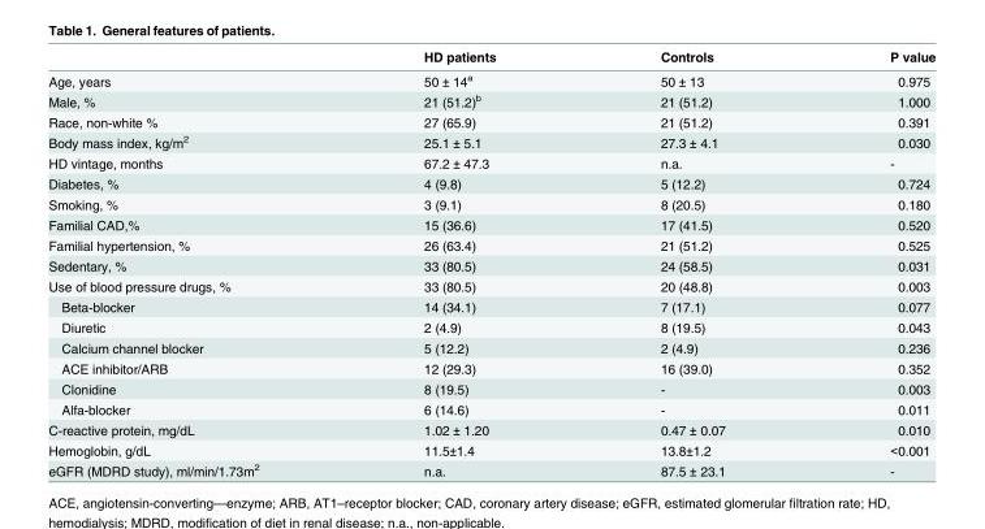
<table><thead><tr><td></td><td>HD patients</td><td>Controls</td><td>P value</td></tr></thead><tbody><tr><td>Age, years</td><td>50 ± 14<sup>a</sup></td><td>50 ± 13</td><td>0.975</td></tr><tr><td>Male, %</td><td>21 (51.2)<sup>b</sup></td><td>21 (51.2)</td><td>1.000</td></tr><tr><td>Race, non-white %</td><td>27 (65.9)</td><td>21 (51.2)</td><td>0.391</td></tr><tr><td>Body mass index, kg/m<sup>2</sup></td><td>25.1 ± 5.1</td><td>27.3 ± 4.1</td><td>0.030</td></tr><tr><td>HD vintage, months</td><td>67.2 ± 47.3</td><td>n.a.</td><td>-</td></tr><tr><td>Diabetes, %</td><td>4 (9.8)</td><td>5 (12.2)</td><td>0.724</td></tr><tr><td>Smoking, %</td><td>3 (9.1)</td><td>8 (20.5)</td><td>0.180</td></tr><tr><td>Familial CAD,%</td><td>15 (36.6)</td><td>17 (41.5)</td><td>0.520</td></tr><tr><td>Familial hypertension, %</td><td>26 (63.4)</td><td>21 (51.2)</td><td>0.525</td></tr><tr><td>Sedentary, %</td><td>33 (80.5)</td><td>24 (58.5)</td><td>0.031</td></tr><tr><td>Use of blood pressure drugs, %</td><td>33 (80.5)</td><td>20 (48.8)</td><td>0.003</td></tr><tr><td>Beta-blocker</td><td>14 (34.1)</td><td>7 (17.1)</td><td>0.077</td></tr><tr><td>Diuretic</td><td>2 (4.9)</td><td>8 (19.5)</td><td>0.043</td></tr><tr><td>Calcium channel blocker</td><td>5 (12.2)</td><td>2 (4.9)</td><td>0.236</td></tr><tr><td>ACE inhibitor/ARB</td><td>12 (29.3)</td><td>16 (39.0)</td><td>0.352</td></tr><tr><td>Clonidine</td><td>8 (19.5)</td><td>-</td><td>0.003</td></tr><tr><td>Alfa-blocker</td><td>6 (14.6)</td><td>-</td><td>0.011</td></tr><tr><td>C-reactive protein, mg/dL</td><td>1.02 ± 1.20</td><td>0.47 ± 0.07</td><td>0.010</td></tr><tr><td>Hemoglobin, g/dL</td><td>11.5±1.4</td><td>13.8±1.2</td><td>&lt;0.001</td></tr><tr><td>eGFR (MDRD study), ml/min/1.73m<sup>2</sup></td><td>n.a.</td><td>87.5 ± 23.1</td><td>-</td></tr></tbody></table>